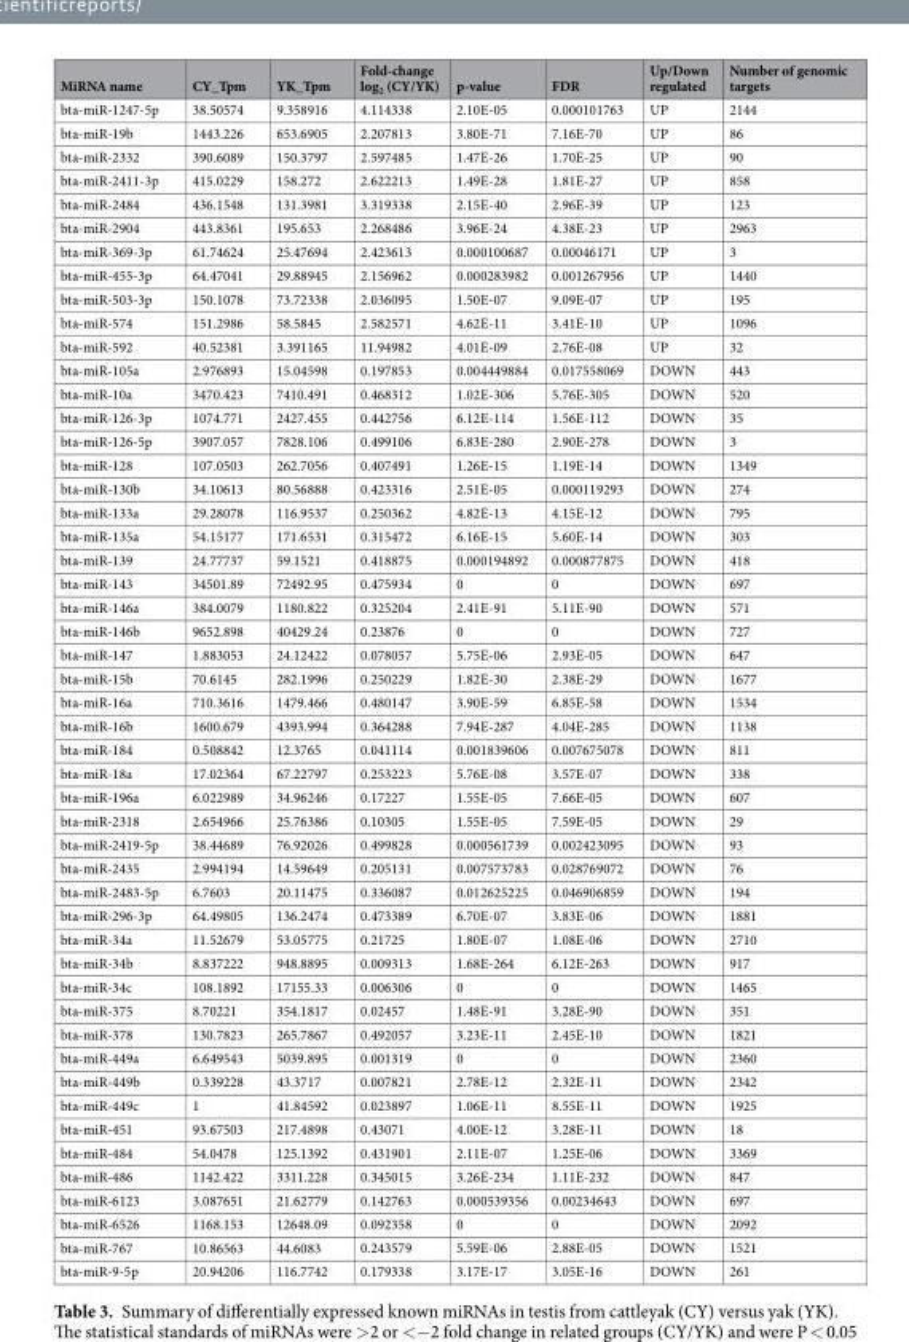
<table><thead><tr><td>MiRNA name</td><td>CY_Tpm</td><td>YK_Tpm</td><td>Fold-change log<sub>2</sub> (CY/YK)</td><td>p-value</td><td>FDR</td><td>Up/Down regulated</td><td>Number of genomic targets</td></tr></thead><tbody><tr><td>bta-miR-1247-5p</td><td>38.50574</td><td>9.358916</td><td>4.114338</td><td>2.10E-05</td><td>0.000101763</td><td>UP</td><td>2144</td></tr><tr><td>bta-miR-19b</td><td>1443.226</td><td>653.6905</td><td>2.207813</td><td>3.80E-71</td><td>7.16E-70</td><td>UP</td><td>86</td></tr><tr><td>bta-miR-2332</td><td>390.6089</td><td>150.3797</td><td>2.597485</td><td>1.47E-26</td><td>1.70E-25</td><td>UP</td><td>90</td></tr><tr><td>bta-miR-2411-3p</td><td>415.0229</td><td>158.272</td><td>2.622213</td><td>1.49E-28</td><td>1.81E-27</td><td>UP</td><td>858</td></tr><tr><td>bta-miR-2484</td><td>436.1548</td><td>131.3981</td><td>3.319338</td><td>2.15E-40</td><td>2.96E-39</td><td>UP</td><td>123</td></tr><tr><td>bta-miR-2904</td><td>443.8361</td><td>195.653</td><td>2.268486</td><td>3.96E-24</td><td>4.38E-23</td><td>UP</td><td>2963</td></tr><tr><td>bta-miR-369-3p</td><td>61.74624</td><td>25.47694</td><td>2.423613</td><td>0.000100687</td><td>0.00046171</td><td>UP</td><td>3</td></tr><tr><td>bta-miR-455-3p</td><td>64.47041</td><td>29.88945</td><td>2.156962</td><td>0.000283982</td><td>0.001267956</td><td>UP</td><td>1440</td></tr><tr><td>bta-miR-503-3p</td><td>150.1078</td><td>73.72338</td><td>2.036095</td><td>1.50E-07</td><td>9.09E-07</td><td>UP</td><td>195</td></tr><tr><td>bta-miR-574</td><td>151.2986</td><td>58.5845</td><td>2.582571</td><td>4.62E-11</td><td>3.41E-10</td><td>UP</td><td>1096</td></tr><tr><td>bta-miR-592</td><td>40.52381</td><td>3.391165</td><td>11.94982</td><td>4.01E-09</td><td>2.76E-08</td><td>UP</td><td>32</td></tr><tr><td>bta-miR-105a</td><td>2.976893</td><td>15.04598</td><td>0.197853</td><td>0.004449884</td><td>0.017558069</td><td>DOWN</td><td>443</td></tr><tr><td>bta-miR-10a</td><td>3470.423</td><td>7410.491</td><td>0.468312</td><td>1.02E-306</td><td>5.76E-305</td><td>DOWN</td><td>520</td></tr><tr><td>bta-miR-126-3p</td><td>1074.771</td><td>2427.455</td><td>0.442756</td><td>6.12E-114</td><td>1.56E-112</td><td>DOWN</td><td>35</td></tr><tr><td>bta-miR-126-5p</td><td>3907.057</td><td>7828.106</td><td>0.499106</td><td>6.83E-280</td><td>2.90E-278</td><td>DOWN</td><td>3</td></tr><tr><td>bta-miR-128</td><td>107.0503</td><td>262.7056</td><td>0.407491</td><td>1.26E-15</td><td>1.19E-14</td><td>DOWN</td><td>1349</td></tr><tr><td>bta-miR-130b</td><td>34.10613</td><td>80.56888</td><td>0.423316</td><td>2.51E-05</td><td>0.000119293</td><td>DOWN</td><td>274</td></tr><tr><td>bta-miR-133a</td><td>29.28078</td><td>116.9537</td><td>0.250362</td><td>4.82E-13</td><td>4.15E-12</td><td>DOWN</td><td>795</td></tr><tr><td>bta-miR-135a</td><td>54.15177</td><td>171.6531</td><td>0.315472</td><td>6.16E-15</td><td>5.60E-14</td><td>DOWN</td><td>303</td></tr><tr><td>bta-miR-139</td><td>24.77737</td><td>59.1521</td><td>0.418875</td><td>0.000194892</td><td>0.000877875</td><td>DOWN</td><td>418</td></tr><tr><td>bta-miR-143</td><td>34501.89</td><td>72492.95</td><td>0.475934</td><td>0</td><td>0</td><td>DOWN</td><td>697</td></tr><tr><td>bta-miR-146a</td><td>384.0079</td><td>1180.822</td><td>0.325204</td><td>2.41E-91</td><td>5.11E-90</td><td>DOWN</td><td>571</td></tr><tr><td>bta-miR-146b</td><td>9652.898</td><td>40429.24</td><td>0.23876</td><td>0</td><td>0</td><td>DOWN</td><td>727</td></tr><tr><td>bta-miR-147</td><td>1.883053</td><td>24.12422</td><td>0.078057</td><td>5.75E-06</td><td>2.93E-05</td><td>DOWN</td><td>647</td></tr><tr><td>bta-miR-15b</td><td>70.6145</td><td>282.1996</td><td>0.250229</td><td>1.82E-30</td><td>2.38E-29</td><td>DOWN</td><td>1677</td></tr><tr><td>bta-miR-16a</td><td>710.3616</td><td>1479.466</td><td>0.480147</td><td>3.90E-59</td><td>6.85E-58</td><td>DOWN</td><td>1534</td></tr><tr><td>bta-miR-16b</td><td>1600.679</td><td>4393.994</td><td>0.364288</td><td>7.94E-287</td><td>4.04E-285</td><td>DOWN</td><td>1138</td></tr><tr><td>bta-miR-184</td><td>0.508842</td><td>12.3765</td><td>0.041114</td><td>0.001839606</td><td>0.007675078</td><td>DOWN</td><td>811</td></tr><tr><td>bta-miR-18a</td><td>17.02364</td><td>67.22797</td><td>0.253223</td><td>5.76E-08</td><td>3.57E-07</td><td>DOWN</td><td>338</td></tr><tr><td>bta-miR-196a</td><td>6.022989</td><td>34.96246</td><td>0.17227</td><td>1.55E-05</td><td>7.66E-05</td><td>DOWN</td><td>607</td></tr><tr><td>bta-miR-2318</td><td>2.654966</td><td>25.76386</td><td>0.10305</td><td>1.55E-05</td><td>7.59E-05</td><td>DOWN</td><td>29</td></tr><tr><td>bta-miR-2419-5p</td><td>38.44689</td><td>76.92026</td><td>0.499828</td><td>0.000561739</td><td>0.002423095</td><td>DOWN</td><td>93</td></tr><tr><td>bta-miR-2435</td><td>2.994194</td><td>14.59649</td><td>0.205131</td><td>0.007573783</td><td>0.028769072</td><td>DOWN</td><td>76</td></tr><tr><td>bta-miR-2483-5p</td><td>6.7603</td><td>20.11475</td><td>0.336087</td><td>0.012625225</td><td>0.046906859</td><td>DOWN</td><td>194</td></tr><tr><td>bta-miR-296-3p</td><td>64.49805</td><td>136.2474</td><td>0.473389</td><td>6.70E-07</td><td>3.83E-06</td><td>DOWN</td><td>1881</td></tr><tr><td>bta-miR-34a</td><td>11.52679</td><td>53.05775</td><td>0.21725</td><td>1.80E-07</td><td>1.08E-06</td><td>DOWN</td><td>2710</td></tr><tr><td>bta-miR-34b</td><td>8.837222</td><td>948.8895</td><td>0.009313</td><td>1.68E-264</td><td>6.12E-263</td><td>DOWN</td><td>917</td></tr><tr><td>bta-miR-34c</td><td>108.1892</td><td>17155.33</td><td>0.006306</td><td>0</td><td>0</td><td>DOWN</td><td>1465</td></tr><tr><td>bta-miR-375</td><td>8.70221</td><td>354.1817</td><td>0.02457</td><td>1.48E-91</td><td>3.28E-90</td><td>DOWN</td><td>351</td></tr><tr><td>bta-miR-378</td><td>130.7823</td><td>265.7867</td><td>0.492057</td><td>3.23E-11</td><td>2.45E-10</td><td>DOWN</td><td>1821</td></tr><tr><td>bta-miR-449a</td><td>6.649543</td><td>5039.895</td><td>0.001319</td><td>0</td><td>0</td><td>DOWN</td><td>2360</td></tr><tr><td>bta-miR-449b</td><td>0.339228</td><td>43.3717</td><td>0.007821</td><td>2.78E-12</td><td>2.32E-11</td><td>DOWN</td><td>2342</td></tr><tr><td>bta-miR-449c</td><td>1</td><td>41.84592</td><td>0.023897</td><td>1.06E-11</td><td>8.55E-11</td><td>DOWN</td><td>1925</td></tr><tr><td>bta-miR-451</td><td>93.67503</td><td>217.4898</td><td>0.43071</td><td>4.00E-12</td><td>3.28E-11</td><td>DOWN</td><td>18</td></tr><tr><td>bta-miR-484</td><td>54.0478</td><td>125.1392</td><td>0.431901</td><td>2.11E-07</td><td>1.25E-06</td><td>DOWN</td><td>3369</td></tr><tr><td>bta-miR-486</td><td>1142.422</td><td>3311.228</td><td>0.345015</td><td>3.26E-234</td><td>1.11E-232</td><td>DOWN</td><td>847</td></tr><tr><td>bta-miR-6123</td><td>3.087651</td><td>21.62779</td><td>0.142763</td><td>0.000539356</td><td>0.00234643</td><td>DOWN</td><td>697</td></tr><tr><td>bta-miR-6526</td><td>1168.153</td><td>12648.09</td><td>0.092358</td><td>0</td><td>0</td><td>DOWN</td><td>2092</td></tr><tr><td>bta-miR-767</td><td>10.86563</td><td>44.6083</td><td>0.243579</td><td>5.59E-06</td><td>2.88E-05</td><td>DOWN</td><td>1521</td></tr><tr><td>bta-miR-9-5p</td><td>20.94206</td><td>116.7742</td><td>0.179338</td><td>3.17E-17</td><td>3.05E-16</td><td>DOWN</td><td>261</td></tr></tbody></table>